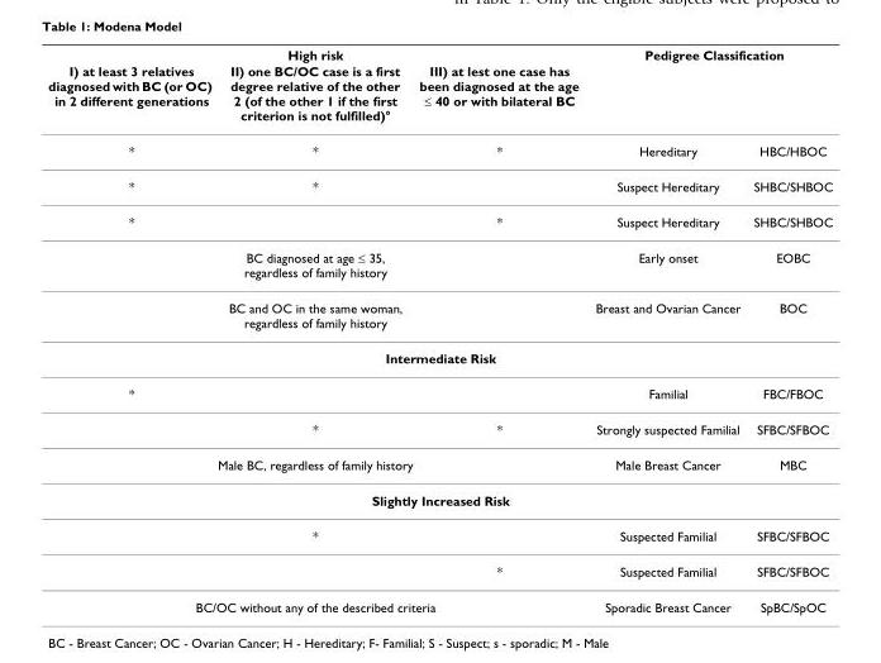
<table><thead><tr><td colspan="3">High risk</td><td colspan="2">Pedigree Classification</td></tr><tr><td>I) at least 3 relatives diagnosed with BC (or OC) in 2 different generations</td><td>II) one BC/OC case is a first degree relative of the other 2 (of the other 1 if the first criterion is not fulfilled)°</td><td>III) at lest one case has been diagnosed at the age ≤ 40 or with bilateral BC</td><td></td><td></td></tr></thead><tbody><tr><td>*</td><td>*</td><td>*</td><td>Hereditary</td><td>HBC/HBOC</td></tr><tr><td>*</td><td>*</td><td></td><td>Suspect Hereditary</td><td>SHBC/SHBOC</td></tr><tr><td>*</td><td></td><td>*</td><td>Suspect Hereditary</td><td>SHBC/SHBOC</td></tr><tr><td colspan="3">BC diagnosed at age ≤ 35, regardless of family history</td><td>Early onset</td><td>EOBC</td></tr><tr><td colspan="3">BC and OC in the same woman, regardless of family history</td><td>Breast and Ovarian Cancer</td><td>BOC</td></tr><tr><td colspan="5">Intermediate Risk</td></tr><tr><td rowspan="2">*</td><td></td><td></td><td>Familial</td><td>FBC/FBOC</td></tr><tr><td>*</td><td>*</td><td>Strongly suspected Familial</td><td>SFBC/SFBOC</td></tr><tr><td colspan="3">Male BC, regardless of family history</td><td>Male Breast Cancer</td><td>MBC</td></tr><tr><td colspan="5">Slightly Increased Risk</td></tr><tr><td></td><td>*</td><td></td><td>Suspected Familial</td><td>SFBC/SFBOC</td></tr><tr><td></td><td></td><td>*</td><td>Suspected Familial</td><td>SFBC/SFBOC</td></tr><tr><td colspan="3">BC/OC without any of the described criteria</td><td>Sporadic Breast Cancer</td><td>SpBC/SpOC</td></tr></tbody></table>